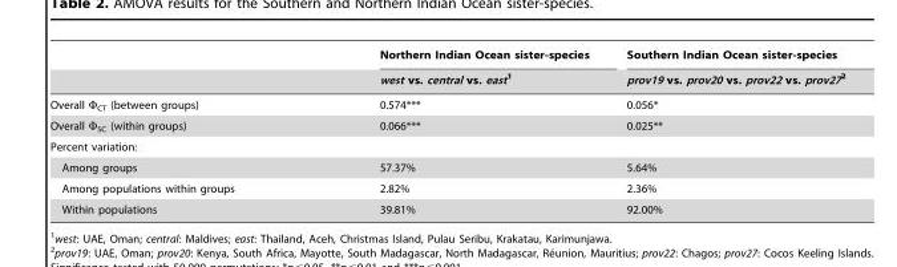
<table><thead><tr><td rowspan="2"></td><td rowspan="2">Northern Indian Ocean sister-species west vs. central vs. east1</td><td rowspan="2">Southern Indian Ocean sister-species prov19 vs. prov20 vs. prov22 vs. prov272</td></tr><tr></tr></thead><tbody><tr><td>Overall Φ<sub>CT</sub> (between groups)</td><td>0.574***</td><td>0.056*</td></tr><tr><td>Overall Φ<sub>SC</sub> (within groups)</td><td>0.066***</td><td>0.025**</td></tr><tr><td colspan="3">Percent variation:</td></tr><tr><td>Among groups</td><td>57.37%</td><td>5.64%</td></tr><tr><td>Among populations within groups</td><td>2.82%</td><td>2.36%</td></tr><tr><td>Within populations</td><td>39.81%</td><td>92.00%</td></tr></tbody></table>